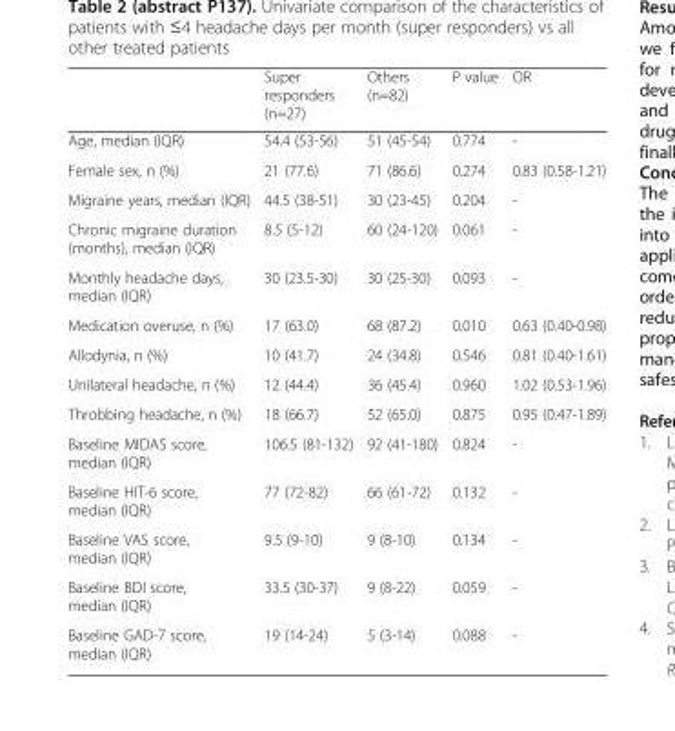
<table><thead><tr><td></td><td>Super responders (n=27)</td><td>Others (n=82)</td><td>P value</td><td>OR</td></tr></thead><tbody><tr><td>Age, median (IQR)</td><td>54.4 (53-56)</td><td>51 (45-54)</td><td>0.774</td><td>-</td></tr><tr><td>Female sex, n (%)</td><td>21 (77.6)</td><td>71 (86.6)</td><td>0.274</td><td>0.83 (0.58-1.21)</td></tr><tr><td>Migraine years, median (IQR)</td><td>44.5 (38-51)</td><td>30 (23-45)</td><td>0.204</td><td>-</td></tr><tr><td>Chronic migraine duration (months), median (IQR)</td><td>8.5 (5-12)</td><td>60 (24-120)</td><td>0.061</td><td>-</td></tr><tr><td>Monthly headache days, median (IQR)</td><td>30 (23.5-30)</td><td>30 (25-30)</td><td>0.093</td><td>-</td></tr><tr><td>Medication overuse, n (%)</td><td>17 (63.0)</td><td>68 (87.2)</td><td>0.010</td><td>0.63 (0.40-0.98)</td></tr><tr><td>Allodynia, n (%)</td><td>10 (41.7)</td><td>24 (34.8)</td><td>0.546</td><td>0.81 (0.40-1.61)</td></tr><tr><td>Unilateral headache, n (%)</td><td>12 (44.4)</td><td>36 (45.4)</td><td>0.960</td><td>1.02 (0.53-1.96)</td></tr><tr><td>Throbbing headache, n (%)</td><td>18 (66.7)</td><td>52 (65.0)</td><td>0.875</td><td>0.95 (0.47-1.89)</td></tr><tr><td>Baseline MIDAS score, median (IQR)</td><td>106.5 (81-132)</td><td>92 (41-180)</td><td>0.824</td><td>-</td></tr><tr><td>Baseline HIT-6 score, median (IQR)</td><td>77 (72-82)</td><td>66 (61-72)</td><td>0.132</td><td>-</td></tr><tr><td>Baseline VAS score, median (IQR)</td><td>9.5 (9-10)</td><td>9 (8-10)</td><td>0.134</td><td>-</td></tr><tr><td>Baseline BDI score, median (IQR)</td><td>33.5 (30-37)</td><td>9 (8-22)</td><td>0.059</td><td>-</td></tr><tr><td>Baseline GAD-7 score, median (IQR)</td><td>19 (14-24)</td><td>5 (3-14)</td><td>0.088</td><td>-</td></tr></tbody></table>